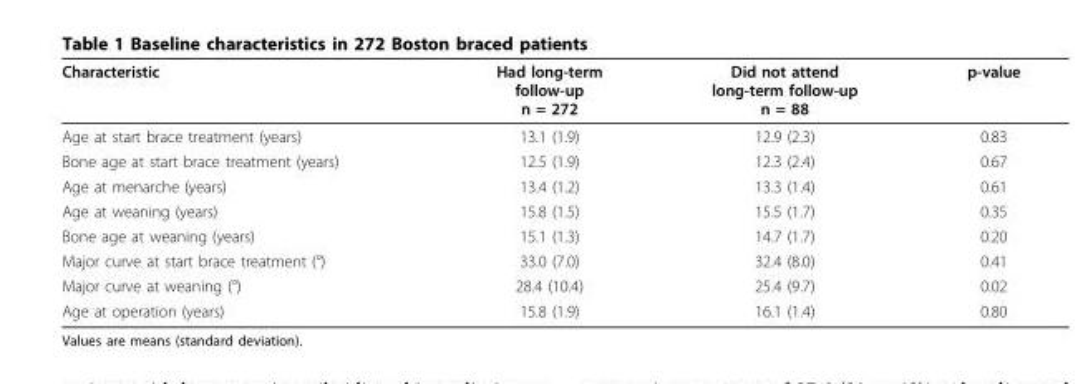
<table><thead><tr><td>Characteristic</td><td>Had long-term follow-up n = 272</td><td>Did not attend long-term follow-up n = 88</td><td>p-value</td></tr></thead><tbody><tr><td>Age at start brace treatment (years)</td><td>13.1 (1.9)</td><td>12.9 (2.3)</td><td>0.83</td></tr><tr><td>Bone age at start brace treatment (years)</td><td>12.5 (1.9)</td><td>12.3 (2.4)</td><td>0.67</td></tr><tr><td>Age at menarche (years)</td><td>13.4 (1.2)</td><td>13.3 (1.4)</td><td>0.61</td></tr><tr><td>Age at weaning (years)</td><td>15.8 (1.5)</td><td>15.5 (1.7)</td><td>0.35</td></tr><tr><td>Bone age at weaning (years)</td><td>15.1 (1.3)</td><td>14.7 (1.7)</td><td>0.20</td></tr><tr><td>Major curve at start brace treatment (°)</td><td>33.0 (7.0)</td><td>32.4 (8.0)</td><td>0.41</td></tr><tr><td>Major curve at weaning (°)</td><td>28.4 (10.4)</td><td>25.4 (9.7)</td><td>0.02</td></tr><tr><td>Age at operation (years)</td><td>15.8 (1.9)</td><td>16.1 (1.4)</td><td>0.80</td></tr></tbody></table>